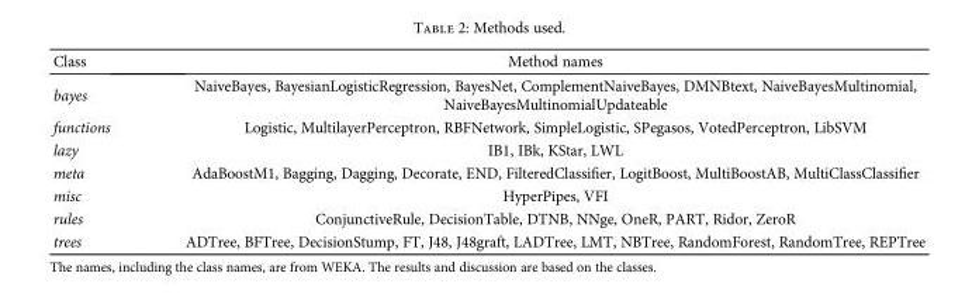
<table><thead><tr><td>Class</td><td>Method names</td></tr></thead><tbody><tr><td>bayes</td><td>NaiveBayes, BayesianLogisticRegression, BayesNet, ComplementNaiveBayes, DMNBtext, NaiveBayesMultinomial, NaiveBayesMultinomialUpdateable</td></tr><tr><td>functions</td><td>Logistic, MultilayerPerceptron, RBFNetwork, SimpleLogistic, SPegasos, VotedPerceptron, LibSVM</td></tr><tr><td>lazy</td><td>IB1, IBk, KStar, LWL</td></tr><tr><td>meta</td><td>AdaBoostM1, Bagging, Dagging, Decorate, END, FilteredClassifier, LogitBoost, MultiBoostAB, MultiClassClassifier</td></tr><tr><td>misc</td><td>HyperPipes, VFI</td></tr><tr><td>rules</td><td>ConjunctiveRule, DecisionTable, DTNB, NNge, OneR, PART, Ridor, ZeroR</td></tr><tr><td>trees</td><td>ADTree, BFTree, DecisionStump, FT, J48, J48graft, LADTree, LMT, NBTree, RandomForest, RandomTree, REPTree</td></tr></tbody></table>